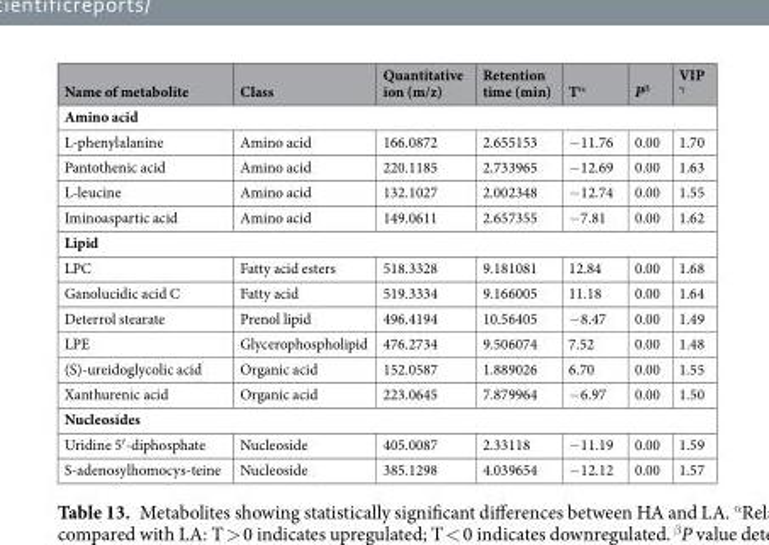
<table><thead><tr><td>Name of metabolite</td><td>Class</td><td>Quantitative ion (m/z)</td><td>Retention time (min)</td><td>T<sup>α</sup></td><td>P<sup>β</sup></td><td>VIP <sup>γ</sup></td></tr></thead><tbody><tr><td colspan="7">Amino acid</td></tr><tr><td>L-phenylalanine</td><td>Amino acid</td><td>166.0872</td><td>2.655153</td><td>−11.76</td><td>0.00</td><td>1.70</td></tr><tr><td>Pantothenic acid</td><td>Amino acid</td><td>220.1185</td><td>2.733965</td><td>−12.69</td><td>0.00</td><td>1.63</td></tr><tr><td>L-leucine</td><td>Amino acid</td><td>132.1027</td><td>2.002348</td><td>−12.74</td><td>0.00</td><td>1.55</td></tr><tr><td>Iminoaspartic acid</td><td>Amino acid</td><td>149.0611</td><td>2.657355</td><td>−7.81</td><td>0.00</td><td>1.62</td></tr><tr><td colspan="7">Lipid</td></tr><tr><td>LPC</td><td>Fatty acid esters</td><td>518.3328</td><td>9.181081</td><td>12.84</td><td>0.00</td><td>1.68</td></tr><tr><td>Ganolucidic acid C</td><td>Fatty acid</td><td>519.3334</td><td>9.166005</td><td>11.18</td><td>0.00</td><td>1.64</td></tr><tr><td>Deterrol stearate</td><td>Prenol lipid</td><td>496.4194</td><td>10.56405</td><td>−8.47</td><td>0.00</td><td>1.49</td></tr><tr><td>LPE</td><td>Glycerophospholipid</td><td>476.2734</td><td>9.506074</td><td>7.52</td><td>0.00</td><td>1.48</td></tr><tr><td>(S)-ureidoglycolic acid</td><td>Organic acid</td><td>152.0587</td><td>1.889026</td><td>6.70</td><td>0.00</td><td>1.55</td></tr><tr><td>Xanthurenic acid</td><td>Organic acid</td><td>223.0645</td><td>7.879964</td><td>−6.97</td><td>0.00</td><td>1.50</td></tr><tr><td colspan="7">Nucleosides</td></tr><tr><td>Uridine 5′-diphosphate</td><td>Nucleoside</td><td>405.0087</td><td>2.33118</td><td>−11.19</td><td>0.00</td><td>1.59</td></tr><tr><td>S-adenosylhomocys-teine</td><td>Nucleoside</td><td>385.1298</td><td>4.039654</td><td>−12.12</td><td>0.00</td><td>1.57</td></tr></tbody></table>